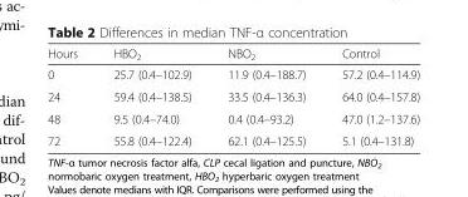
<table><thead><tr><td>Hours</td><td>HBO<sub>2</sub></td><td>NBO<sub>2</sub></td><td>Control</td></tr></thead><tbody><tr><td>0</td><td>25.7 (0.4–102.9)</td><td>11.9 (0.4–188.7)</td><td>57.2 (0.4–114.9)</td></tr><tr><td>24</td><td>59.4 (0.4–138.5)</td><td>33.5 (0.4–136.3)</td><td>64.0 (0.4–157.8)</td></tr><tr><td>48</td><td>9.5 (0.4–74.0)</td><td>0.4 (0.4–93.2)</td><td>47.0 (1.2–137.6)</td></tr><tr><td>72</td><td>55.8 (0.4–122.4)</td><td>62.1 (0.4–125.5)</td><td>5.1 (0.4–131.8)</td></tr></tbody></table>